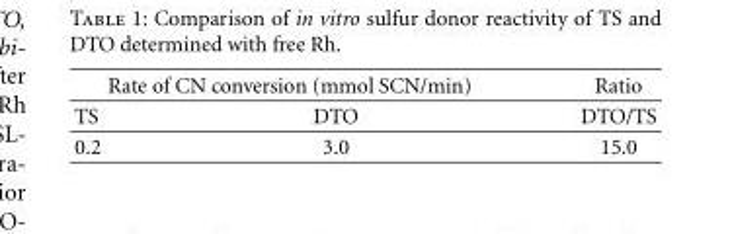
<table><thead><tr><td colspan="2">Rate of CN conversion (mmol SCN/min)</td><td rowspan="2">Ratio DTO/TS</td></tr><tr><td>TS</td><td>DTO</td></tr></thead><tbody><tr><td>0.2</td><td>3.0</td><td>15.0</td></tr></tbody></table>